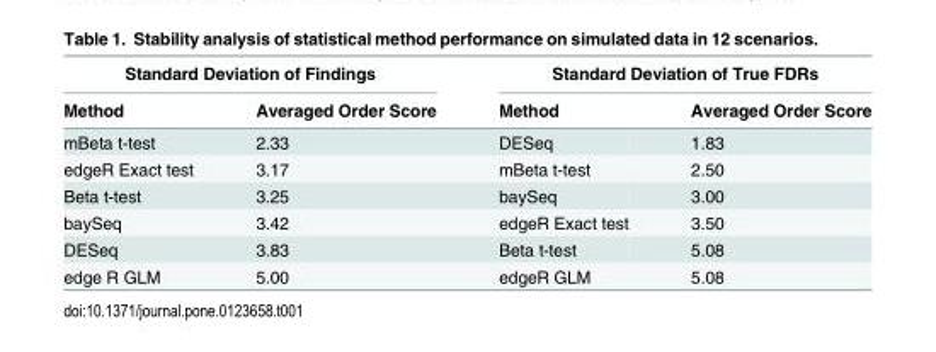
<table><thead><tr><td colspan="2">Standard Deviation of Findings</td><td colspan="2">Standard Deviation of True FDRs</td></tr><tr><td>Method</td><td>Averaged Order Score</td><td>Method</td><td>Averaged Order Score</td></tr></thead><tbody><tr><td>mBeta t-test</td><td>2.33</td><td>DESeq</td><td>1.83</td></tr><tr><td>edgeR Exact test</td><td>3.17</td><td>mBeta t-test</td><td>2.50</td></tr><tr><td>Beta t-test</td><td>3.25</td><td>baySeq</td><td>3.00</td></tr><tr><td>baySeq</td><td>3.42</td><td>edgeR Exact test</td><td>3.50</td></tr><tr><td>DESeq</td><td>3.83</td><td>Beta t-test</td><td>5.08</td></tr><tr><td>edge R GLM</td><td>5.00</td><td>edgeR GLM</td><td>5.08</td></tr></tbody></table>